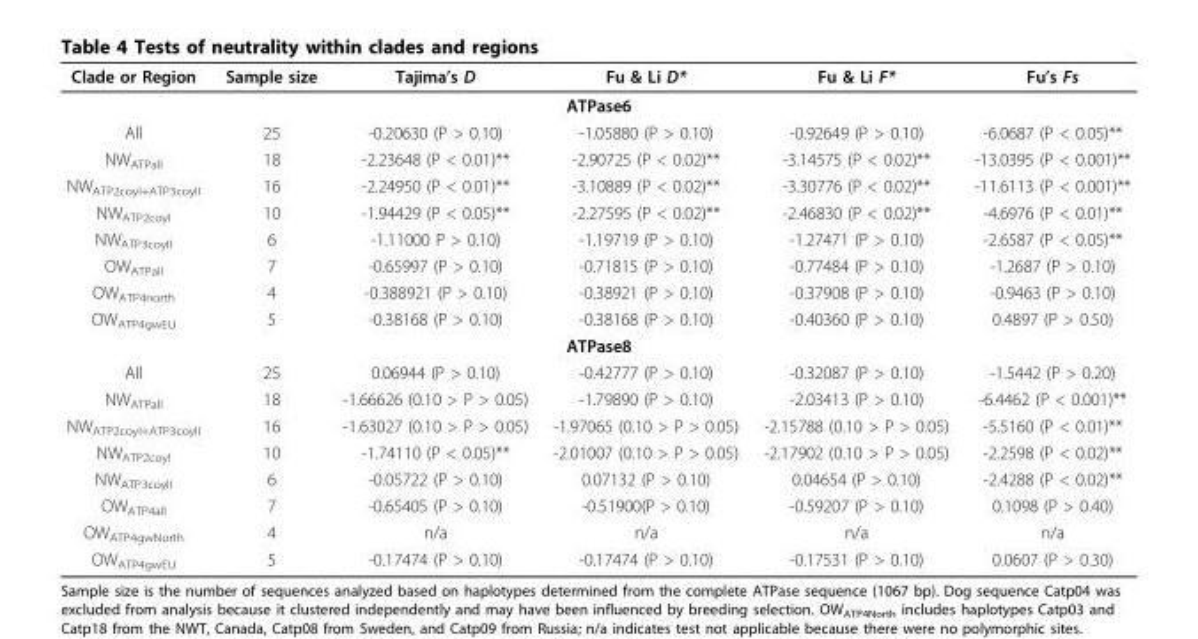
<table><thead><tr><td>Clade or Region</td><td>Sample size</td><td>Tajima’s D</td><td>Fu &amp; Li D*</td><td>Fu &amp; Li F*</td><td>Fu’s Fs</td></tr></thead><tbody><tr><td colspan="6">ATPase6</td></tr><tr><td>All</td><td>25</td><td>-0.20630 (P &gt; 0.10)</td><td>-1.05880 (P &gt; 0.10)</td><td>-0.92649 (P &gt; 0.10)</td><td>-6.0687 (P &lt; 0.05)**</td></tr><tr><td>NW<sub>ATPall</sub></td><td>18</td><td>-2.23648 (P &lt; 0.01)**</td><td>-2.90725 (P &lt; 0.02)**</td><td>-3.14575 (P &lt; 0.02)**</td><td>-13.0395 (P &lt; 0.001)**</td></tr><tr><td>NW<sub>ATP2coyI+ATP3coyII</sub></td><td>16</td><td>-2.24950 (P &lt; 0.01)**</td><td>-3.10889 (P &lt; 0.02)**</td><td>-3.30776 (P &lt; 0.02)**</td><td>-11.6113 (P &lt; 0.001)**</td></tr><tr><td>NW<sub>ATP2coyI</sub></td><td>10</td><td>-1.94429 (P &lt; 0.05)**</td><td>-2.27595 (P &lt; 0.02)**</td><td>-2.46830 (P &lt; 0.02)**</td><td>-4.6976 (P &lt; 0.01)**</td></tr><tr><td>NW<sub>ATP3coyII</sub></td><td>6</td><td>-1.11000 P &gt; 0.10)</td><td>-1.19719 (P &gt; 0.10)</td><td>-1.27471 (P &gt; 0.10)</td><td>-2.6587 (P &lt; 0.05)**</td></tr><tr><td>OW<sub>ATPall</sub></td><td>7</td><td>-0.65997 (P &gt; 0.10)</td><td>-0.71815 (P &gt; 0.10)</td><td>-0.77484 (P &gt; 0.10)</td><td>-1.2687 (P &gt; 0.10)</td></tr><tr><td>OW<sub>ATP4north</sub></td><td>4</td><td>-0.388921 (P &gt; 0.10)</td><td>-0.38921 (P &gt; 0.10)</td><td>-0.37908 (P &gt; 0.10)</td><td>-0.9463 (P &gt; 0.10)</td></tr><tr><td>OW<sub>ATP4gwEU</sub></td><td>5</td><td>-0.38168 (P &gt; 0.10)</td><td>-0.38168 (P &gt; 0.10)</td><td>-0.40360 (P &gt; 0.10)</td><td>0.4897 (P &gt; 0.50)</td></tr><tr><td colspan="6">ATPase8</td></tr><tr><td>All</td><td>25</td><td>0.06944 (P &gt; 0.10)</td><td>-0.42777 (P &gt; 0.10)</td><td>-0.32087 (P &gt; 0.10)</td><td>-1.5442 (P &gt; 0.20)</td></tr><tr><td>NW<sub>ATPall</sub></td><td>18</td><td>-1.66626 (0.10 &gt; P &gt; 0.05)</td><td>-1.79890 (P &gt; 0.10)</td><td>-2.03413 (P &gt; 0.10)</td><td>-6.4462 (P &lt; 0.001)**</td></tr><tr><td>NW<sub>ATP2coyI+ATP3coyII</sub></td><td>16</td><td>-1.63027 (0.10 &gt; P &gt; 0.05)</td><td>-1.97065 (0.10 &gt; P &gt; 0.05)</td><td>-2.15788 (0.10 &gt; P &gt; 0.05)</td><td>-5.5160 (P &lt; 0.01)**</td></tr><tr><td>NW<sub>ATP2coyI</sub></td><td>10</td><td>-1.74110 (P &lt; 0.05)**</td><td>-2.01007 (0.10 &gt; P &gt; 0.05)</td><td>-2.17902 (0.10 &gt; P &gt; 0.05)</td><td>-2.2598 (P &lt; 0.02)**</td></tr><tr><td>NW<sub>ATP3coyII</sub></td><td>6</td><td>-0.05722 (P &gt; 0.10)</td><td>0.07132 (P &gt; 0.10)</td><td>0.04654 (P &gt; 0.10)</td><td>-2.4288 (P &lt; 0.02)**</td></tr><tr><td>OW<sub>ATP4all</sub></td><td>7</td><td>-0.65405 (P &gt; 0.10)</td><td>-0.51900(P &gt; 0.10)</td><td>-0.59207 (P &gt; 0.10)</td><td>0.1098 (P &gt; 0.40)</td></tr><tr><td>OW<sub>ATP4gwNorth</sub></td><td>4</td><td>n/a</td><td>n/a</td><td>n/a</td><td>n/a</td></tr><tr><td>OW<sub>ATP4gwEU</sub></td><td>5</td><td>-0.17474 (P &gt; 0.10)</td><td>-0.17474 (P &gt; 0.10)</td><td>-0.17531 (P &gt; 0.10)</td><td>0.0607 (P &gt; 0.30)</td></tr></tbody></table>